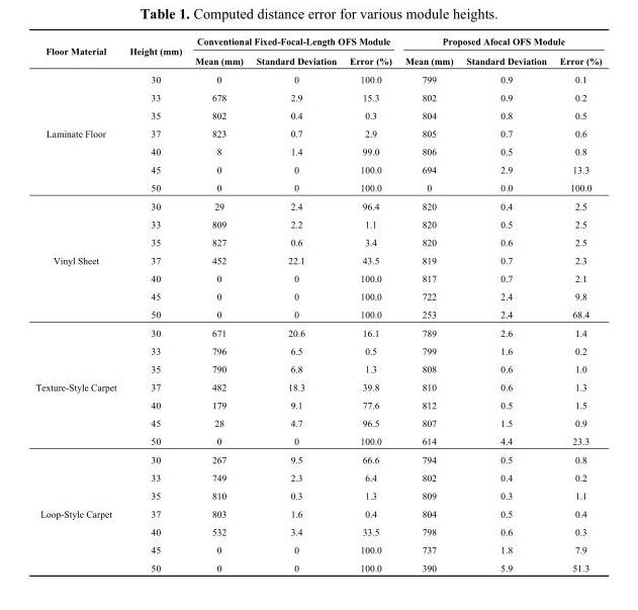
<table><thead><tr><td rowspan="2">Floor Material</td><td rowspan="2">Height (mm)</td><td colspan="3">Conventional Fixed-Focal-Length OFS Module</td><td colspan="3">Proposed Afocal OFS Module</td></tr><tr><td>Mean (mm)</td><td>Standard Deviation</td><td>Error (%)</td><td>Mean (mm)</td><td>Standard Deviation</td><td>Error (%)</td></tr></thead><tbody><tr><td rowspan="7">Laminate Floor</td><td>30</td><td>0</td><td>0</td><td>100.0</td><td>799</td><td>0.9</td><td>0.1</td></tr><tr><td>33</td><td>678</td><td>2.9</td><td>15.3</td><td>802</td><td>0.9</td><td>0.2</td></tr><tr><td>35</td><td>802</td><td>0.4</td><td>0.3</td><td>804</td><td>0.8</td><td>0.5</td></tr><tr><td>37</td><td>823</td><td>0.7</td><td>2.9</td><td>805</td><td>0.7</td><td>0.6</td></tr><tr><td>40</td><td>8</td><td>1.4</td><td>99.0</td><td>806</td><td>0.5</td><td>0.8</td></tr><tr><td>45</td><td>0</td><td>0</td><td>100.0</td><td>694</td><td>2.9</td><td>13.3</td></tr><tr><td>50</td><td>0</td><td>0</td><td>100.0</td><td>0</td><td>0.0</td><td>100.0</td></tr><tr><td rowspan="7">Vinyl Sheet</td><td>30</td><td>29</td><td>2.4</td><td>96.4</td><td>820</td><td>0.4</td><td>2.5</td></tr><tr><td>33</td><td>809</td><td>2.2</td><td>1.1</td><td>820</td><td>0.5</td><td>2.5</td></tr><tr><td>35</td><td>827</td><td>0.6</td><td>3.4</td><td>820</td><td>0.6</td><td>2.5</td></tr><tr><td>37</td><td>452</td><td>22.1</td><td>43.5</td><td>819</td><td>0.7</td><td>2.3</td></tr><tr><td>40</td><td>0</td><td>0</td><td>100.0</td><td>817</td><td>0.7</td><td>2.1</td></tr><tr><td>45</td><td>0</td><td>0</td><td>100.0</td><td>722</td><td>2.4</td><td>9.8</td></tr><tr><td>50</td><td>0</td><td>0</td><td>100.0</td><td>253</td><td>2.4</td><td>68.4</td></tr><tr><td rowspan="7">Texture-Style Carpet</td><td>30</td><td>671</td><td>20.6</td><td>16.1</td><td>789</td><td>2.6</td><td>1.4</td></tr><tr><td>33</td><td>796</td><td>6.5</td><td>0.5</td><td>799</td><td>1.6</td><td>0.2</td></tr><tr><td>35</td><td>790</td><td>6.8</td><td>1.3</td><td>808</td><td>0.6</td><td>1.0</td></tr><tr><td>37</td><td>482</td><td>18.3</td><td>39.8</td><td>810</td><td>0.6</td><td>1.3</td></tr><tr><td>40</td><td>179</td><td>9.1</td><td>77.6</td><td>812</td><td>0.5</td><td>1.5</td></tr><tr><td>45</td><td>28</td><td>4.7</td><td>96.5</td><td>807</td><td>1.5</td><td>0.9</td></tr><tr><td>50</td><td>0</td><td>0</td><td>100.0</td><td>614</td><td>4.4</td><td>23.3</td></tr><tr><td rowspan="7">Loop-Style Carpet</td><td>30</td><td>267</td><td>9.5</td><td>66.6</td><td>794</td><td>0.5</td><td>0.8</td></tr><tr><td>33</td><td>749</td><td>2.3</td><td>6.4</td><td>802</td><td>0.4</td><td>0.2</td></tr><tr><td>35</td><td>810</td><td>0.3</td><td>1.3</td><td>809</td><td>0.3</td><td>1.1</td></tr><tr><td>37</td><td>803</td><td>1.6</td><td>0.4</td><td>804</td><td>0.5</td><td>0.4</td></tr><tr><td>40</td><td>532</td><td>3.4</td><td>33.5</td><td>798</td><td>0.6</td><td>0.3</td></tr><tr><td>45</td><td>0</td><td>0</td><td>100.0</td><td>737</td><td>1.8</td><td>7.9</td></tr><tr><td>50</td><td>0</td><td>0</td><td>100.0</td><td>390</td><td>5.9</td><td>51.3</td></tr></tbody></table>